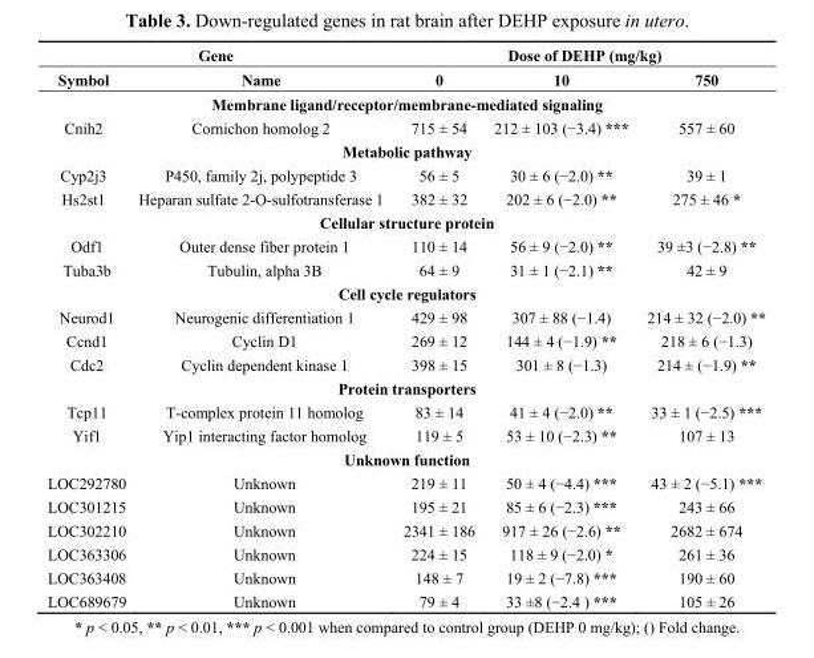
<table><thead><tr><td colspan="2">Gene</td><td colspan="3">Dose of DEHP (mg/kg)</td></tr><tr><td>Symbol</td><td>Name</td><td>0</td><td>10</td><td>750</td></tr></thead><tbody><tr><td colspan="5">Membrane ligand/receptor/membrane-mediated signaling</td></tr><tr><td>Cnih2</td><td>Cornichon homolog 2</td><td>715 ± 54</td><td>212 ± 103 (−3.4) ***</td><td>557 ± 60</td></tr><tr><td colspan="5">Metabolic pathway</td></tr><tr><td>Cyp2j3</td><td>P450, family 2j, polypeptide 3</td><td>56 ± 5</td><td>30 ± 6 (−2.0) **</td><td>39 ± 1</td></tr><tr><td>Hs2st1</td><td>Heparan sulfate 2-O-sulfotransferase 1</td><td>382 ± 32</td><td>202 ± 6 (−2.0) **</td><td>275 ± 46 *</td></tr><tr><td colspan="5">Cellular structure protein</td></tr><tr><td>Odf1</td><td>Outer dense fiber protein 1</td><td>110 ± 14</td><td>56 ± 9 (−2.0) **</td><td>39 ±3 (−2.8) **</td></tr><tr><td>Tuba3b</td><td>Tubulin, alpha 3B</td><td>64 ± 9</td><td>31 ± 1 (−2.1) **</td><td>42 ± 9</td></tr><tr><td colspan="5">Cell cycle regulators</td></tr><tr><td>Neurod1</td><td>Neurogenic differentiation 1</td><td>429 ± 98</td><td>307 ± 88 (−1.4)</td><td>214 ± 32 (−2.0) **</td></tr><tr><td>Ccnd1</td><td>Cyclin D1</td><td>269 ± 12</td><td>144 ± 4 (−1.9) **</td><td>218 ± 6 (−1.3)</td></tr><tr><td>Cdc2</td><td>Cyclin dependent kinase 1</td><td>398 ± 15</td><td>301 ± 8 (−1.3)</td><td>214 ± (−1.9) **</td></tr><tr><td colspan="5">Protein transporters</td></tr><tr><td>Tcp11</td><td>T-complex protein 11 homolog</td><td>83 ± 14</td><td>41 ± 4 (−2.0) **</td><td>33 ± 1 (−2.5) ***</td></tr><tr><td>Yif1</td><td>Yip1 interacting factor homolog</td><td>119 ± 5</td><td>53 ± 10 (−2.3) **</td><td>107 ± 13</td></tr><tr><td colspan="5">Unknown function</td></tr><tr><td>LOC292780</td><td>Unknown</td><td>219 ± 11</td><td>50 ± 4 (−4.4) ***</td><td>43 ± 2 (−5.1) ***</td></tr><tr><td>LOC301215</td><td>Unknown</td><td>195 ± 21</td><td>85 ± 6 (−2.3) ***</td><td>243 ± 66</td></tr><tr><td>LOC302210</td><td>Unknown</td><td>2341 ± 186</td><td>917 ± 26 (−2.6) **</td><td>2682 ± 674</td></tr><tr><td>LOC363306</td><td>Unknown</td><td>224 ± 15</td><td>118 ± 9 (−2.0) *</td><td>261 ± 36</td></tr><tr><td>LOC363408</td><td>Unknown</td><td>148 ± 7</td><td>19 ± 2 (−7.8) ***</td><td>190 ± 60</td></tr><tr><td>LOC689679</td><td>Unknown</td><td>79 ± 4</td><td>33 ±8 (−2.4 ) ***</td><td>105 ± 26</td></tr></tbody></table>